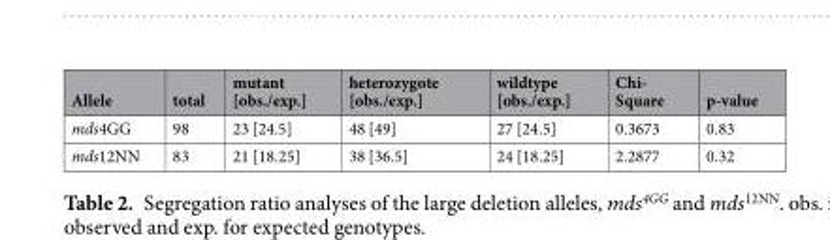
<table><thead><tr><td>Allele</td><td>total</td><td>mutant [obs./exp.]</td><td>heterozygote [obs./exp.]</td><td>wildtype [obs./exp.]</td><td>Chi- Square</td><td>p-value</td></tr></thead><tbody><tr><td>mds4GG</td><td>98</td><td>23 [24.5]</td><td>48 [49]</td><td>27 [24.5]</td><td>0.3673</td><td>0.83</td></tr><tr><td>mds12NN</td><td>83</td><td>21 [18.25]</td><td>38 [36.5]</td><td>24 [18.25]</td><td>2.2877</td><td>0.32</td></tr></tbody></table>